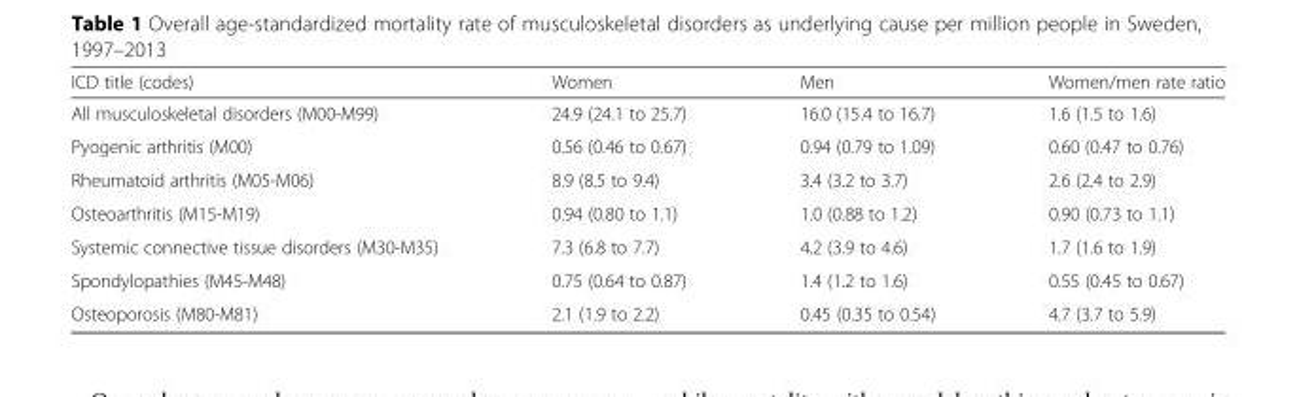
<table><thead><tr><td>ICD title (codes)</td><td>Women</td><td>Men</td><td>Women/men rate ratio</td></tr></thead><tbody><tr><td>All musculoskeletal disorders (M00-M99)</td><td>24.9 (24.1 to 25.7)</td><td>16.0 (15.4 to 16.7)</td><td>1.6 (1.5 to 1.6)</td></tr><tr><td>Pyogenic arthritis (M00)</td><td>0.56 (0.46 to 0.67)</td><td>0.94 (0.79 to 1.09)</td><td>0.60 (0.47 to 0.76)</td></tr><tr><td>Rheumatoid arthritis (M05-M06)</td><td>8.9 (8.5 to 9.4)</td><td>3.4 (3.2 to 3.7)</td><td>2.6 (2.4 to 2.9)</td></tr><tr><td>Osteoarthritis (M15-M19)</td><td>0.94 (0.80 to 1.1)</td><td>1.0 (0.88 to 1.2)</td><td>0.90 (0.73 to 1.1)</td></tr><tr><td>Systemic connective tissue disorders (M30-M35)</td><td>7.3 (6.8 to 7.7)</td><td>4.2 (3.9 to 4.6)</td><td>1.7 (1.6 to 1.9)</td></tr><tr><td>Spondylopathies (M45-M48)</td><td>0.75 (0.64 to 0.87)</td><td>1.4 (1.2 to 1.6)</td><td>0.55 (0.45 to 0.67)</td></tr><tr><td>Osteoporosis (M80-M81)</td><td>2.1 (1.9 to 2.2)</td><td>0.45 (0.35 to 0.54)</td><td>4.7 (3.7 to 5.9)</td></tr></tbody></table>